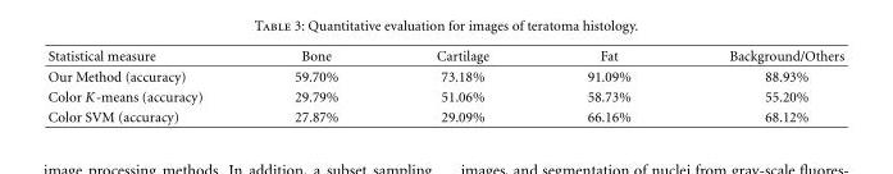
<table><thead><tr><td>Statistical measure</td><td>Bone</td><td>Cartilage</td><td>Fat</td><td>Background/Others</td></tr></thead><tbody><tr><td>Our Method (accuracy)</td><td>59.70%</td><td>73.18%</td><td>91.09%</td><td>88.93%</td></tr><tr><td>Color K-means (accuracy)</td><td>29.79%</td><td>51.06%</td><td>58.73%</td><td>55.20%</td></tr><tr><td>Color SVM (accuracy)</td><td>27.87%</td><td>29.09%</td><td>66.16%</td><td>68.12%</td></tr></tbody></table>